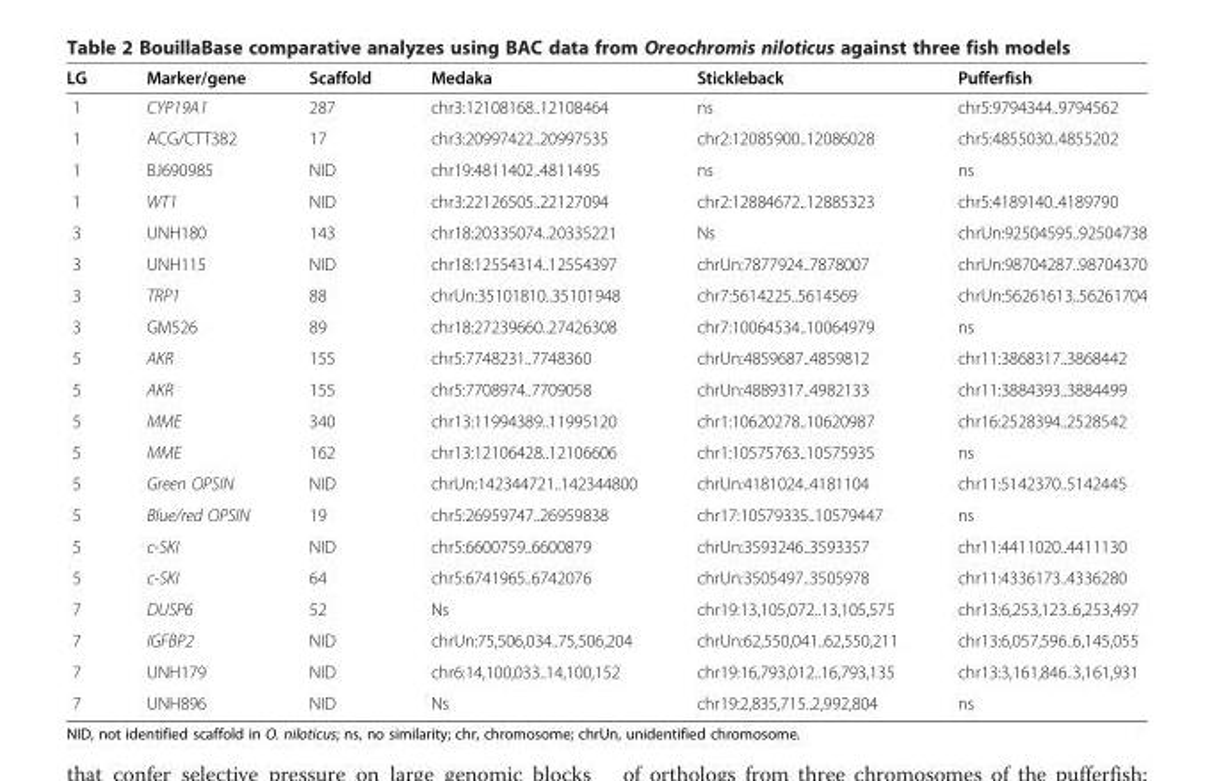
<table><thead><tr><td>LG</td><td>Marker/gene</td><td>Scaffold</td><td>Medaka</td><td>Stickleback</td><td>Pufferfish</td></tr></thead><tbody><tr><td>1</td><td>CYP19A1</td><td>287</td><td>chr3:12108168..12108464</td><td>ns</td><td>chr5:9794344..9794562</td></tr><tr><td>1</td><td>ACG/CTT382</td><td>17</td><td>chr3:20997422..20997535</td><td>chr2:12085900..12086028</td><td>chr5:4855030..4855202</td></tr><tr><td>1</td><td>BJ690985</td><td>NID</td><td>chr19:4811402..4811495</td><td>ns</td><td>ns</td></tr><tr><td>1</td><td>WT1</td><td>NID</td><td>chr3:22126505..22127094</td><td>chr2:12884672..12885323</td><td>chr5:4189140..4189790</td></tr><tr><td>3</td><td>UNH180</td><td>143</td><td>chr18:20335074..20335221</td><td>Ns</td><td>chrUn:92504595..92504738</td></tr><tr><td>3</td><td>UNH115</td><td>NID</td><td>chr18:12554314..12554397</td><td>chrUn:7877924..7878007</td><td>chrUn:98704287..98704370</td></tr><tr><td>3</td><td>TRP1</td><td>88</td><td>chrUn:35101810..35101948</td><td>chr7:5614225..5614569</td><td>chrUn:56261613..56261704</td></tr><tr><td>3</td><td>GM526</td><td>89</td><td>chr18:27239660..27426308</td><td>chr7:10064534..10064979</td><td>ns</td></tr><tr><td>5</td><td>AKR</td><td>155</td><td>chr5:7748231..7748360</td><td>chrUn:4859687..4859812</td><td>chr11:3868317..3868442</td></tr><tr><td>5</td><td>AKR</td><td>155</td><td>chr5:7708974..7709058</td><td>chrUn:4889317..4982133</td><td>chr11:3884393..3884499</td></tr><tr><td>5</td><td>MME</td><td>340</td><td>chr13:11994389..11995120</td><td>chr1:10620278..10620987</td><td>chr16:2528394..2528542</td></tr><tr><td>5</td><td>MME</td><td>162</td><td>chr13:12106428..12106606</td><td>chr1:10575763..10575935</td><td>ns</td></tr><tr><td>5</td><td>Green OPSIN</td><td>NID</td><td>chrUn:142344721..142344800</td><td>chrUn:4181024..4181104</td><td>chr11:5142370..5142445</td></tr><tr><td>5</td><td>Blue/red OPSIN</td><td>19</td><td>chr5:26959747..26959838</td><td>chr17:10579335..10579447</td><td>ns</td></tr><tr><td>5</td><td>c-SKI</td><td>NID</td><td>chr5:6600759..6600879</td><td>chrUn:3593246..3593357</td><td>chr11:4411020..4411130</td></tr><tr><td>5</td><td>c-SKI</td><td>64</td><td>chr5:6741965..6742076</td><td>chrUn:3505497..3505978</td><td>chr11:4336173..4336280</td></tr><tr><td>7</td><td>DUSP6</td><td>52</td><td>Ns</td><td>chr19:13,105,072..13,105,575</td><td>chr13:6,253,123..6,253,497</td></tr><tr><td>7</td><td>IGFBP2</td><td>NID</td><td>chrUn:75,506,034..75,506,204</td><td>chrUn:62,550,041..62,550,211</td><td>chr13:6,057,596..6,145,055</td></tr><tr><td>7</td><td>UNH179</td><td>NID</td><td>chr6:14,100,033..14,100,152</td><td>chr19:16,793,012..16,793,135</td><td>chr13:3,161,846..3,161,931</td></tr><tr><td>7</td><td>UNH896</td><td>NID</td><td>Ns</td><td>chr19:2,835,715..2,992,804</td><td>ns</td></tr></tbody></table>